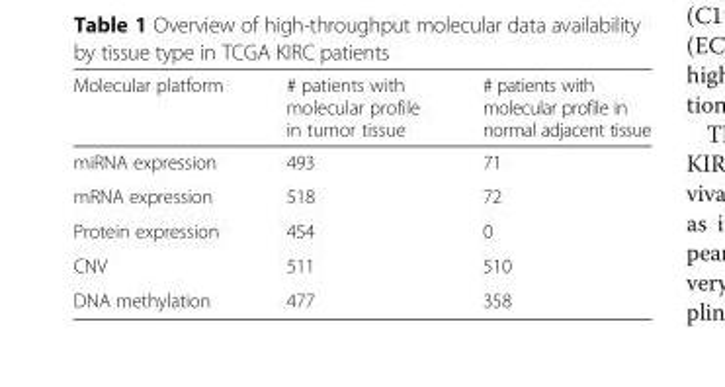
<table><thead><tr><td>Molecular platform</td><td># patients with molecular profile in tumor tissue</td><td># patients with molecular profile in normal adjacent tissue</td></tr></thead><tbody><tr><td>miRNA expression</td><td>493</td><td>71</td></tr><tr><td>mRNA expression</td><td>518</td><td>72</td></tr><tr><td>Protein expression</td><td>454</td><td>0</td></tr><tr><td>CNV</td><td>511</td><td>510</td></tr><tr><td>DNA methylation</td><td>477</td><td>358</td></tr></tbody></table>